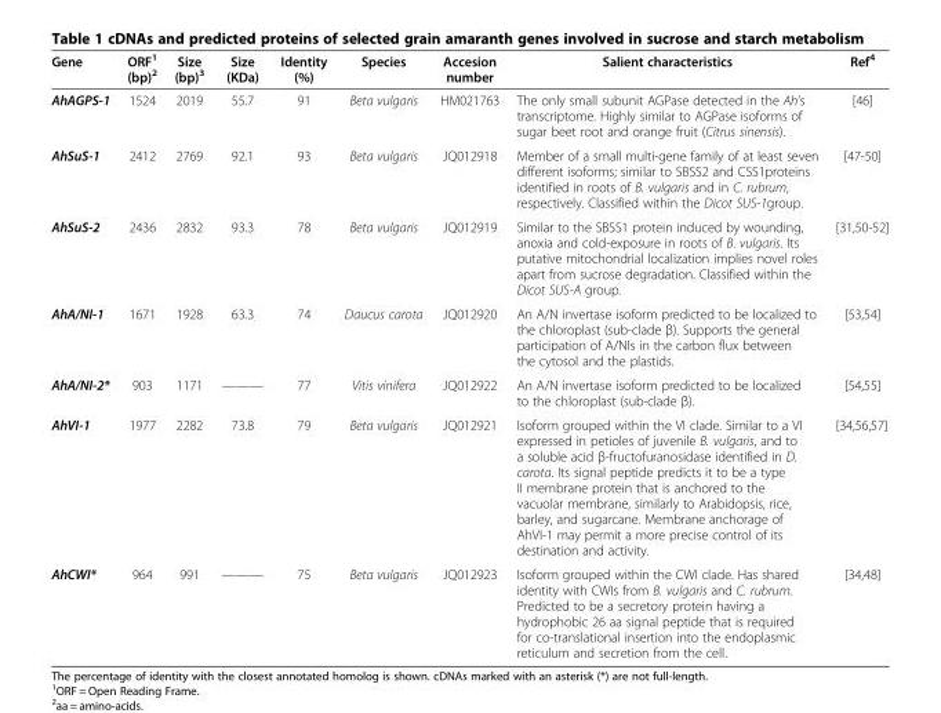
<table><thead><tr><td>Gene</td><td>ORF<sup>1</sup> (bp)<sup>2</sup></td><td>Size (bp)<sup>3</sup></td><td>Size (KDa)</td><td>Identity (%)</td><td>Species</td><td>Accesion number</td><td>Salient characteristics</td><td>Ref<sup>4</sup></td></tr></thead><tbody><tr><td>AhAGPS-1</td><td>1524</td><td>2019</td><td>55.7</td><td>91</td><td>Beta vulgaris</td><td>HM021763</td><td>The only small subunit AGPase detected in the Ah’s transcriptome. Highly similar to AGPase isoforms of sugar beet root and orange fruit (Citrus sinensis).</td><td>[46]</td></tr><tr><td>AhSuS-1</td><td>2412</td><td>2769</td><td>92.1</td><td>93</td><td>Beta vulgaris</td><td>JQ012918</td><td>Member of a small multi-gene family of at least seven different isoforms; similar to SBSS2 and CSS1proteins identified in roots of B. vulgaris and in C. rubrum, respectively. Classified within the Dicot SUS-1group.</td><td>[47-50]</td></tr><tr><td>AhSuS-2</td><td>2436</td><td>2832</td><td>93.3</td><td>78</td><td>Beta vulgaris</td><td>JQ012919</td><td>Similar to the SBSS1 protein induced by wounding, anoxia and cold-exposure in roots of B. vulgaris. Its putative mitochondrial localization implies novel roles apart from sucrose degradation. Classified within the Dicot SUS-A group.</td><td>[31,50-52]</td></tr><tr><td>AhA/NI-1</td><td>1671</td><td>1928</td><td>63.3</td><td>74</td><td>Daucus carota</td><td>JQ012920</td><td>An A/N invertase isoform predicted to be localized to the chloroplast (sub-clade β). Supports the general participation of A/NIs in the carbon flux between the cytosol and the plastids.</td><td>[53,54]</td></tr><tr><td>AhA/NI-2*</td><td>903</td><td>1171</td><td>———</td><td>77</td><td>Vitis vinifera</td><td>JQ012922</td><td>An A/N invertase isoform predicted to be localized to the chloroplast (sub-clade β).</td><td>[54,55]</td></tr><tr><td>AhVI-1</td><td>1977</td><td>2282</td><td>73.8</td><td>79</td><td>Beta vulgaris</td><td>JQ012921</td><td>Isoform grouped within the VI clade. Similar to a VI expressed in petioles of juvenile B. vulgaris, and to a soluble acid β-fructofuranosidase identified in D. carota. Its signal peptide predicts it to be a type II membrane protein that is anchored to the vacuolar membrane, similarly to Arabidopsis, rice, barley, and sugarcane. Membrane anchorage of AhVI-1 may permit a more precise control of its destination and activity.</td><td>[34,56,57]</td></tr><tr><td>AhCWI*</td><td>964</td><td>991</td><td>———</td><td>75</td><td>Beta vulgaris</td><td>JQ012923</td><td>Isoform grouped within the CWI clade. Has shared identity with CWIs from B. vulgaris and C. rubrum. Predicted to be a secretory protein having a hydrophobic 26 aa signal peptide that is required for co-translational insertion into the endoplasmic reticulum and secretion from the cell.</td><td>[34,48]</td></tr></tbody></table>